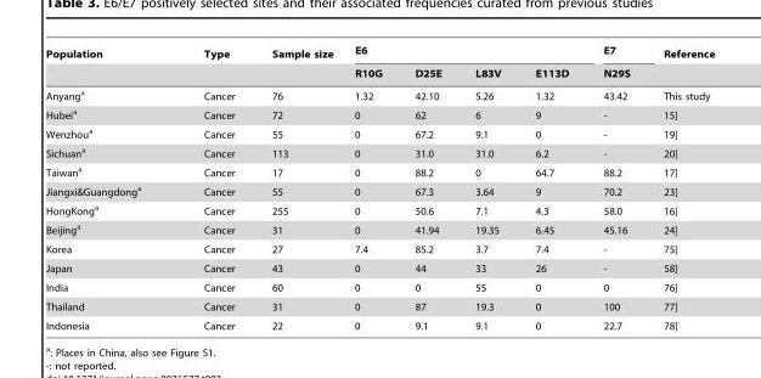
<table><thead><tr><td rowspan="2">Population</td><td rowspan="2">Type</td><td rowspan="2">Sample size</td><td colspan="4">E6</td><td rowspan="2">E7 N29S</td><td rowspan="2">Reference</td></tr><tr><td>R10G</td><td>D25E</td><td>L83V</td><td>E113D</td></tr></thead><tbody><tr><td>Anyang<sup>a</sup></td><td>Cancer</td><td>76</td><td>1.32</td><td>42.10</td><td>5.26</td><td>1.32</td><td>43.42</td><td>This study</td></tr><tr><td>Hubei<sup>a</sup></td><td>Cancer</td><td>72</td><td>0</td><td>62</td><td>6</td><td>9</td><td>-</td><td>15]</td></tr><tr><td>Wenzhou<sup>a</sup></td><td>Cancer</td><td>55</td><td>0</td><td>67.2</td><td>9.1</td><td>0</td><td>-</td><td>19]</td></tr><tr><td>Sichuan<sup>a</sup></td><td>Cancer</td><td>113</td><td>0</td><td>31.0</td><td>31.0</td><td>6.2</td><td>-</td><td>20]</td></tr><tr><td>Taiwan<sup>a</sup></td><td>Cancer</td><td>17</td><td>0</td><td>88.2</td><td>0</td><td>64.7</td><td>88.2</td><td>17]</td></tr><tr><td>Jiangxi&amp;Guangdong<sup>a</sup></td><td>Cancer</td><td>55</td><td>0</td><td>67.3</td><td>3.64</td><td>9</td><td>70.2</td><td>23]</td></tr><tr><td>HongKong<sup>a</sup></td><td>Cancer</td><td>255</td><td>0</td><td>50.6</td><td>7.1</td><td>4.3</td><td>58.0</td><td>16]</td></tr><tr><td>Beijing<sup>a</sup></td><td>Cancer</td><td>31</td><td>0</td><td>41.94</td><td>19.35</td><td>6.45</td><td>45.16</td><td>24]</td></tr><tr><td>Korea</td><td>Cancer</td><td>27</td><td>7.4</td><td>85.2</td><td>3.7</td><td>7.4</td><td>-</td><td>75]</td></tr><tr><td>Japan</td><td>Cancer</td><td>43</td><td>0</td><td>44</td><td>33</td><td>26</td><td>-</td><td>58]</td></tr><tr><td>India</td><td>Cancer</td><td>60</td><td>0</td><td>0</td><td>55</td><td>0</td><td>0</td><td>76]</td></tr><tr><td>Thailand</td><td>Cancer</td><td>31</td><td>0</td><td>87</td><td>19.3</td><td>0</td><td>100</td><td>77]</td></tr><tr><td>Indonesia</td><td>Cancer</td><td>22</td><td>0</td><td>9.1</td><td>9.1</td><td>0</td><td>22.7</td><td>78]</td></tr></tbody></table>